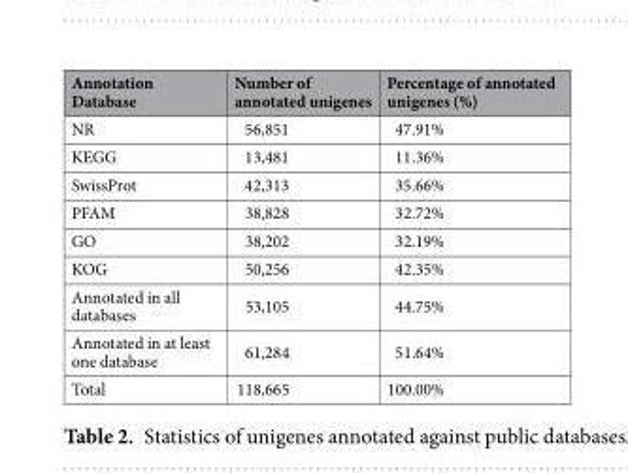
<table><thead><tr><td>Annotation Database</td><td>Number of annotated unigenes</td><td>Percentage of annotated unigenes (%)</td></tr></thead><tbody><tr><td>NR</td><td>56,851</td><td>47.91%</td></tr><tr><td>KEGG</td><td>13,481</td><td>11.36%</td></tr><tr><td>SwissProt</td><td>42,313</td><td>35.66%</td></tr><tr><td>PFAM</td><td>38,828</td><td>32.72%</td></tr><tr><td>GO</td><td>38,202</td><td>32.19%</td></tr><tr><td>KOG</td><td>50,256</td><td>42.35%</td></tr><tr><td>Annotated in all databases</td><td>53,105</td><td>44.75%</td></tr><tr><td>Annotated in at least one database</td><td>61,284</td><td>51.64%</td></tr><tr><td>Total</td><td>118,665</td><td>100.00%</td></tr></tbody></table>